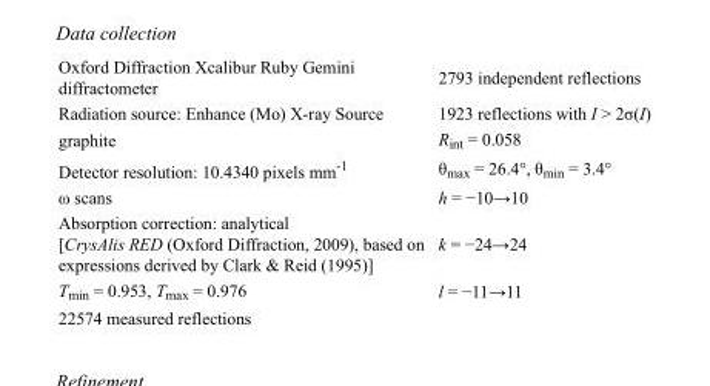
<table><tbody><tr><td>Oxford Diffraction Xcalibur Ruby Gemini diffractometer</td><td>2793 independent reflections</td></tr><tr><td>Radiation source: Enhance (Mo) X-ray Source</td><td>1923 reflections with I &gt; 2σ(I)</td></tr><tr><td>graphite</td><td>R<sub>int</sub> = 0.058</td></tr><tr><td>Detector resolution: 10.4340 pixels mm<sup>-1</sup></td><td>θ<sub>max</sub> = 26.4°, θ<sub>min</sub> = 3.4°</td></tr><tr><td>ω scans</td><td>h = −10→10</td></tr><tr><td>Absorption correction: analytical [CrysAlis RED (Oxford Diffraction, 2009), based on expressions derived by Clark &amp; Reid (1995)]</td><td>k = −24→24</td></tr><tr><td>T<sub>min</sub> = 0.953, T<sub>max</sub> = 0.976</td><td>l = −11→11</td></tr><tr><td>22574 measured reflections</td><td></td></tr></tbody></table>